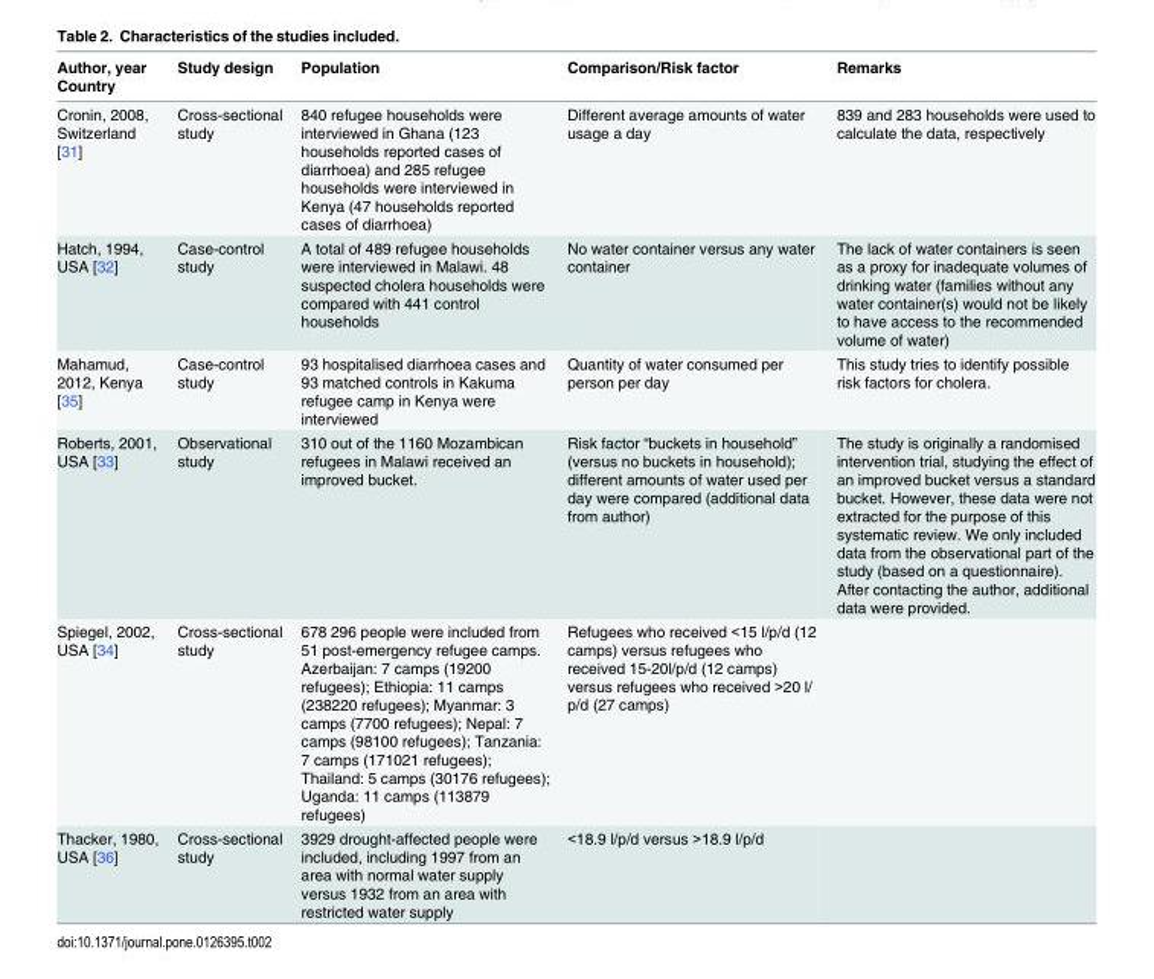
<table><thead><tr><td>Author, year Country</td><td>Study design</td><td>Population</td><td>Comparison/Risk factor</td><td>Remarks</td></tr></thead><tbody><tr><td>Cronin, 2008, Switzerland [31]</td><td>Cross-sectional study</td><td>840 refugee households were interviewed in Ghana (123 households reported cases of diarrhoea) and 285 refugee households were interviewed in Kenya (47 households reported cases of diarrhoea)</td><td>Different average amounts of water usage a day</td><td>839 and 283 households were used to calculate the data, respectively</td></tr><tr><td>Hatch, 1994, USA [32]</td><td>Case-control study</td><td>A total of 489 refugee households were interviewed in Malawi. 48 suspected cholera households were compared with 441 control households</td><td>No water container versus any water container</td><td>The lack of water containers is seen as a proxy for inadequate volumes of drinking water (families without any water container(s) would not be likely to have access to the recommended volume of water)</td></tr><tr><td>Mahamud, 2012, Kenya [35]</td><td>Case-control study</td><td>93 hospitalised diarrhoea cases and 93 matched controls in Kakuma refugee camp in Kenya were interviewed</td><td>Quantity of water consumed per person per day</td><td>This study tries to identify possible risk factors for cholera.</td></tr><tr><td>Roberts, 2001, USA [33]</td><td>Observational study</td><td>310 out of the 1160 Mozambican refugees in Malawi received an improved bucket.</td><td>Risk factor “buckets in household” (versus no buckets in household); different amounts of water used per day were compared (additional data from author)</td><td>The study is originally a randomised intervention trial, studying the effect of an improved bucket versus a standard bucket. However, these data were not extracted for the purpose of this systematic review. We only included data from the observational part of the study (based on a questionnaire). After contacting the author, additional data were provided.</td></tr><tr><td>Spiegel, 2002, USA [34]</td><td>Cross-sectional study</td><td>678 296 people were included from 51 post-emergency refugee camps. Azerbaijan: 7 camps (19200 refugees); Ethiopia: 11 camps (238220 refugees); Myanmar: 3 camps (7700 refugees); Nepal: 7 camps (98100 refugees); Tanzania: 7 camps (171021 refugees); Thailand: 5 camps (30176 refugees); Uganda: 11 camps (113879 refugees)</td><td>Refugees who received &lt;15 l/p/d (12 camps) versus refugees who received 15-20l/p/d (12 camps) versus refugees who received &gt;20 l/ p/d (27 camps)</td><td></td></tr><tr><td>Thacker, 1980, USA [36]</td><td>Cross-sectional study</td><td>3929 drought-affected people were included, including 1997 from an area with normal water supply versus 1932 from an area with restricted water supply</td><td>&lt;18.9 l/p/d versus &gt;18.9 l/p/d</td><td></td></tr></tbody></table>